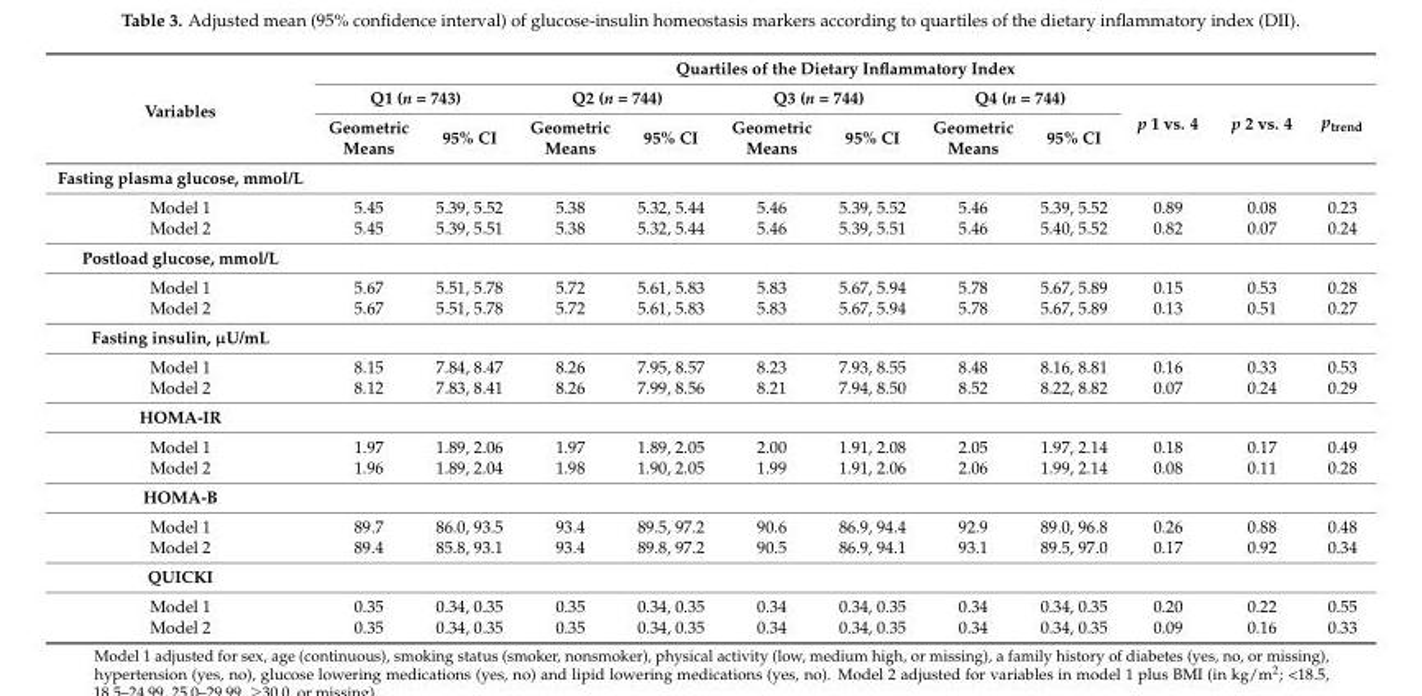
<table><thead><tr><td rowspan="3">Variables</td><td colspan="11">Quartiles of the Dietary Inflammatory Index</td></tr><tr><td colspan="2">Q1 (n = 743)</td><td colspan="2">Q2 (n = 744)</td><td colspan="2">Q3 (n = 744)</td><td colspan="2">Q4 (n = 744)</td><td rowspan="2">p 1 vs. 4</td><td rowspan="2">p 2 vs. 4</td><td rowspan="2">p<sub>trend</sub></td></tr><tr><td>Geometric Means</td><td>95% CI</td><td>Geometric Means</td><td>95% CI</td><td>Geometric Means</td><td>95% CI</td><td>Geometric Means</td><td>95% CI</td></tr></thead><tbody><tr><td colspan="12">Fasting plasma glucose, mmol/L</td></tr><tr><td>Model 1</td><td>5.45</td><td>5.39, 5.52</td><td>5.38</td><td>5.32, 5.44</td><td>5.46</td><td>5.39, 5.52</td><td>5.46</td><td>5.39, 5.52</td><td>0.89</td><td>0.08</td><td>0.23</td></tr><tr><td>Model 2</td><td>5.45</td><td>5.39, 5.51</td><td>5.38</td><td>5.32, 5.44</td><td>5.46</td><td>5.39, 5.51</td><td>5.46</td><td>5.40, 5.52</td><td>0.82</td><td>0.07</td><td>0.24</td></tr><tr><td colspan="12">Postload glucose, mmol/L</td></tr><tr><td>Model 1</td><td>5.67</td><td>5.51, 5.78</td><td>5.72</td><td>5.61, 5.83</td><td>5.83</td><td>5.67, 5.94</td><td>5.78</td><td>5.67, 5.89</td><td>0.15</td><td>0.53</td><td>0.28</td></tr><tr><td>Model 2</td><td>5.67</td><td>5.51, 5.78</td><td>5.72</td><td>5.61, 5.83</td><td>5.83</td><td>5.67, 5.94</td><td>5.78</td><td>5.67, 5.89</td><td>0.13</td><td>0.51</td><td>0.27</td></tr><tr><td colspan="12">Fasting insulin, µU/mL</td></tr><tr><td>Model 1</td><td>8.15</td><td>7.84, 8.47</td><td>8.26</td><td>7.95, 8.57</td><td>8.23</td><td>7.93, 8.55</td><td>8.48</td><td>8.16, 8.81</td><td>0.16</td><td>0.33</td><td>0.53</td></tr><tr><td>Model 2</td><td>8.12</td><td>7.83, 8.41</td><td>8.26</td><td>7.99, 8.56</td><td>8.21</td><td>7.94, 8.50</td><td>8.52</td><td>8.22, 8.82</td><td>0.07</td><td>0.24</td><td>0.29</td></tr><tr><td colspan="12">HOMA-IR</td></tr><tr><td>Model 1</td><td>1.97</td><td>1.89, 2.06</td><td>1.97</td><td>1.89, 2.05</td><td>2.00</td><td>1.91, 2.08</td><td>2.05</td><td>1.97, 2.14</td><td>0.18</td><td>0.17</td><td>0.49</td></tr><tr><td>Model 2</td><td>1.96</td><td>1.89, 2.04</td><td>1.98</td><td>1.90, 2.05</td><td>1.99</td><td>1.91, 2.06</td><td>2.06</td><td>1.99, 2.14</td><td>0.08</td><td>0.11</td><td>0.28</td></tr><tr><td colspan="12">HOMA-B</td></tr><tr><td>Model 1</td><td>89.7</td><td>86.0, 93.5</td><td>93.4</td><td>89.5, 97.2</td><td>90.6</td><td>86.9, 94.4</td><td>92.9</td><td>89.0, 96.8</td><td>0.26</td><td>0.88</td><td>0.48</td></tr><tr><td>Model 2</td><td>89.4</td><td>85.8, 93.1</td><td>93.4</td><td>89.8, 97.2</td><td>90.5</td><td>86.9, 94.1</td><td>93.1</td><td>89.5, 97.0</td><td>0.17</td><td>0.92</td><td>0.34</td></tr><tr><td colspan="12">QUICKI</td></tr><tr><td>Model 1</td><td>0.35</td><td>0.34, 0.35</td><td>0.35</td><td>0.34, 0.35</td><td>0.34</td><td>0.34, 0.35</td><td>0.34</td><td>0.34, 0.35</td><td>0.20</td><td>0.22</td><td>0.55</td></tr><tr><td>Model 2</td><td>0.35</td><td>0.34, 0.35</td><td>0.35</td><td>0.34, 0.35</td><td>0.34</td><td>0.34, 0.35</td><td>0.34</td><td>0.34, 0.35</td><td>0.09</td><td>0.16</td><td>0.33</td></tr></tbody></table>